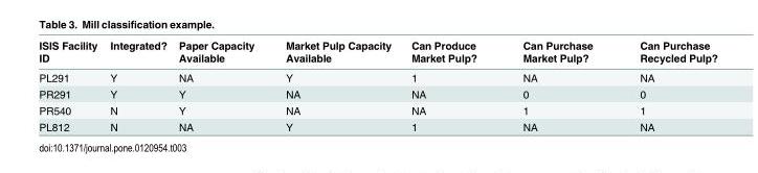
<table><thead><tr><td>ISIS Facility ID</td><td>Integrated?</td><td>Paper Capacity Available</td><td>Market Pulp Capacity Available</td><td>Can Produce Market Pulp?</td><td>Can Purchase Market Pulp?</td><td>Can Purchase Recycled Pulp?</td></tr></thead><tbody><tr><td>PL291</td><td>Y</td><td>NA</td><td>Y</td><td>1</td><td>NA</td><td>NA</td></tr><tr><td>PR291</td><td>Y</td><td>Y</td><td>NA</td><td>NA</td><td>0</td><td>0</td></tr><tr><td>PR540</td><td>N</td><td>Y</td><td>NA</td><td>NA</td><td>1</td><td>1</td></tr><tr><td>PL812</td><td>N</td><td>NA</td><td>Y</td><td>1</td><td>NA</td><td>NA</td></tr></tbody></table>